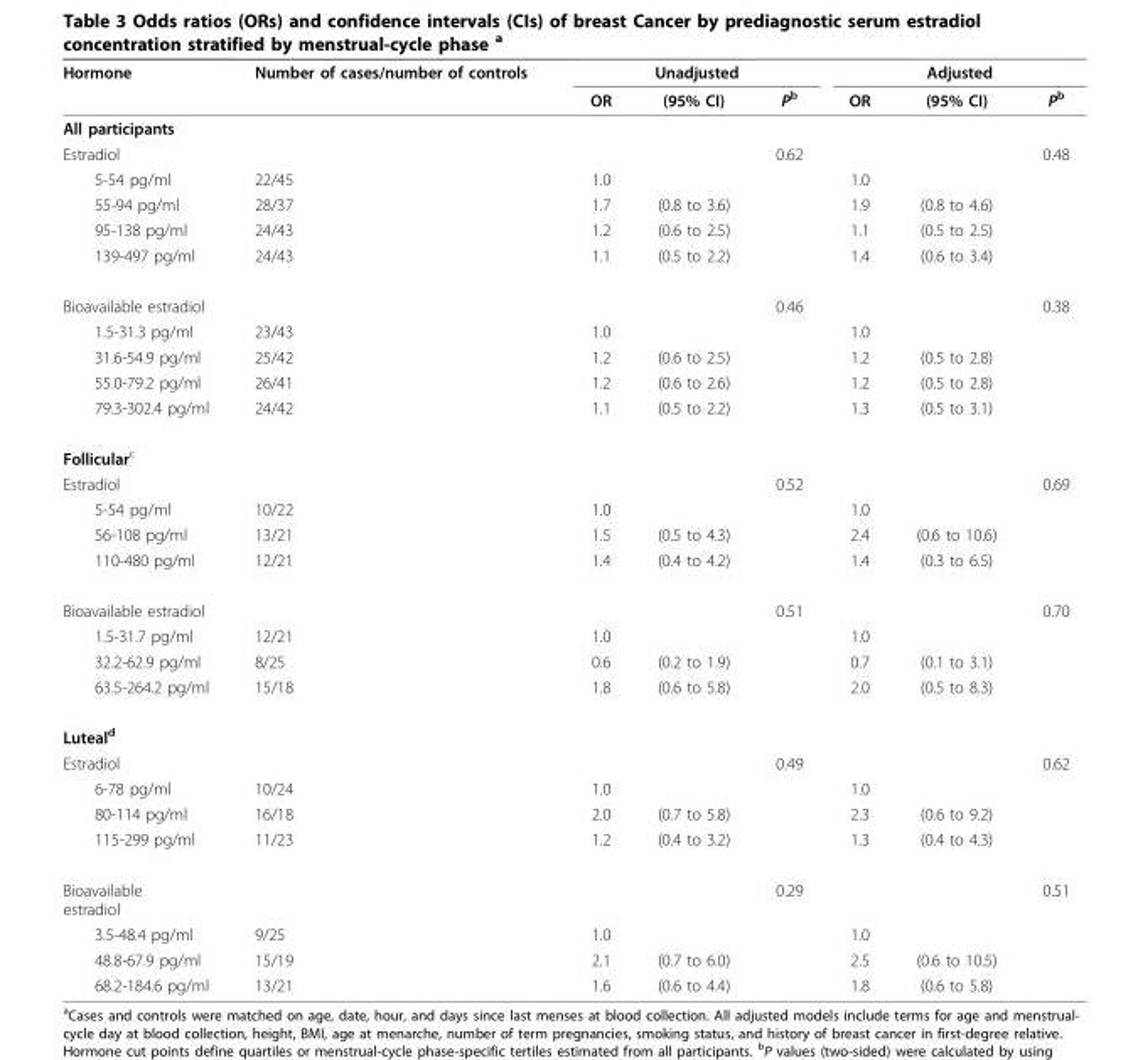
<table><thead><tr><td rowspan="2">Hormone</td><td rowspan="2">Number of cases/number of controls</td><td colspan="3">Unadjusted</td><td colspan="3">Adjusted</td></tr><tr><td>OR</td><td>(95% CI)</td><td>P<sup>b</sup></td><td>OR</td><td>(95% CI)</td><td>P<sup>b</sup></td></tr></thead><tbody><tr><td colspan="8">All participants</td></tr><tr><td>Estradiol</td><td></td><td></td><td></td><td>0.62</td><td></td><td></td><td>0.48</td></tr><tr><td>5-54 pg/ml</td><td>22/45</td><td>1.0</td><td></td><td></td><td>1.0</td><td></td><td></td></tr><tr><td>55-94 pg/ml</td><td>28/37</td><td>1.7</td><td>(0.8 to 3.6)</td><td></td><td>1.9</td><td>(0.8 to 4.6)</td><td></td></tr><tr><td>95-138 pg/ml</td><td>24/43</td><td>1.2</td><td>(0.6 to 2.5)</td><td></td><td>1.1</td><td>(0.5 to 2.5)</td><td></td></tr><tr><td>139-497 pg/ml</td><td>24/43</td><td>1.1</td><td>(0.5 to 2.2)</td><td></td><td>1.4</td><td>(0.6 to 3.4)</td><td></td></tr><tr><td>Bioavailable estradiol</td><td></td><td></td><td></td><td>0.46</td><td></td><td></td><td>0.38</td></tr><tr><td>1.5-31.3 pg/ml</td><td>23/43</td><td>1.0</td><td></td><td></td><td>1.0</td><td></td><td></td></tr><tr><td>31.6-54.9 pg/ml</td><td>25/42</td><td>1.2</td><td>(0.6 to 2.5)</td><td></td><td>1.2</td><td>(0.5 to 2.8)</td><td></td></tr><tr><td>55.0-79.2 pg/ml</td><td>26/41</td><td>1.2</td><td>(0.6 to 2.6)</td><td></td><td>1.2</td><td>(0.5 to 2.8)</td><td></td></tr><tr><td>79.3-302.4 pg/ml</td><td>24/42</td><td>1.1</td><td>(0.5 to 2.2)</td><td></td><td>1.3</td><td>(0.5 to 3.1)</td><td></td></tr><tr><td colspan="8">Follicular<sup>c</sup></td></tr><tr><td>Estradiol</td><td></td><td></td><td></td><td>0.52</td><td></td><td></td><td>0.69</td></tr><tr><td>5-54 pg/ml</td><td>10/22</td><td>1.0</td><td></td><td></td><td>1.0</td><td></td><td></td></tr><tr><td>56-108 pg/ml</td><td>13/21</td><td>1.5</td><td>(0.5 to 4.3)</td><td></td><td>2.4</td><td>(0.6 to 10.6)</td><td></td></tr><tr><td>110-480 pg/ml</td><td>12/21</td><td>1.4</td><td>(0.4 to 4.2)</td><td></td><td>1.4</td><td>(0.3 to 6.5)</td><td></td></tr><tr><td>Bioavailable estradiol</td><td></td><td></td><td></td><td>0.51</td><td></td><td></td><td>0.70</td></tr><tr><td>1.5-31.7 pg/ml</td><td>12/21</td><td>1.0</td><td></td><td></td><td>1.0</td><td></td><td></td></tr><tr><td>32.2-62.9 pg/ml</td><td>8/25</td><td>0.6</td><td>(0.2 to 1.9)</td><td></td><td>0.7</td><td>(0.1 to 3.1)</td><td></td></tr><tr><td>63.5-264.2 pg/ml</td><td>15/18</td><td>1.8</td><td>(0.6 to 5.8)</td><td></td><td>2.0</td><td>(0.5 to 8.3)</td><td></td></tr><tr><td colspan="8">Luteal<sup>d</sup></td></tr><tr><td>Estradiol</td><td></td><td></td><td></td><td>0.49</td><td></td><td></td><td>0.62</td></tr><tr><td>6-78 pg/ml</td><td>10/24</td><td>1.0</td><td></td><td></td><td>1.0</td><td></td><td></td></tr><tr><td>80-114 pg/ml</td><td>16/18</td><td>2.0</td><td>(0.7 to 5.8)</td><td></td><td>2.3</td><td>(0.6 to 9.2)</td><td></td></tr><tr><td>115-299 pg/ml</td><td>11/23</td><td>1.2</td><td>(0.4 to 3.2)</td><td></td><td>1.3</td><td>(0.4 to 4.3)</td><td></td></tr><tr><td>Bioavailable estradiol</td><td></td><td></td><td></td><td>0.29</td><td></td><td></td><td>0.51</td></tr><tr><td>3.5-48.4 pg/ml</td><td>9/25</td><td>1.0</td><td></td><td></td><td>1.0</td><td></td><td></td></tr><tr><td>48.8-67.9 pg/ml</td><td>15/19</td><td>2.1</td><td>(0.7 to 6.0)</td><td></td><td>2.5</td><td>(0.6 to 10.5)</td><td></td></tr><tr><td>68.2-184.6 pg/ml</td><td>13/21</td><td>1.6</td><td>(0.6 to 4.4)</td><td></td><td>1.8</td><td>(0.6 to 5.8)</td><td></td></tr></tbody></table>